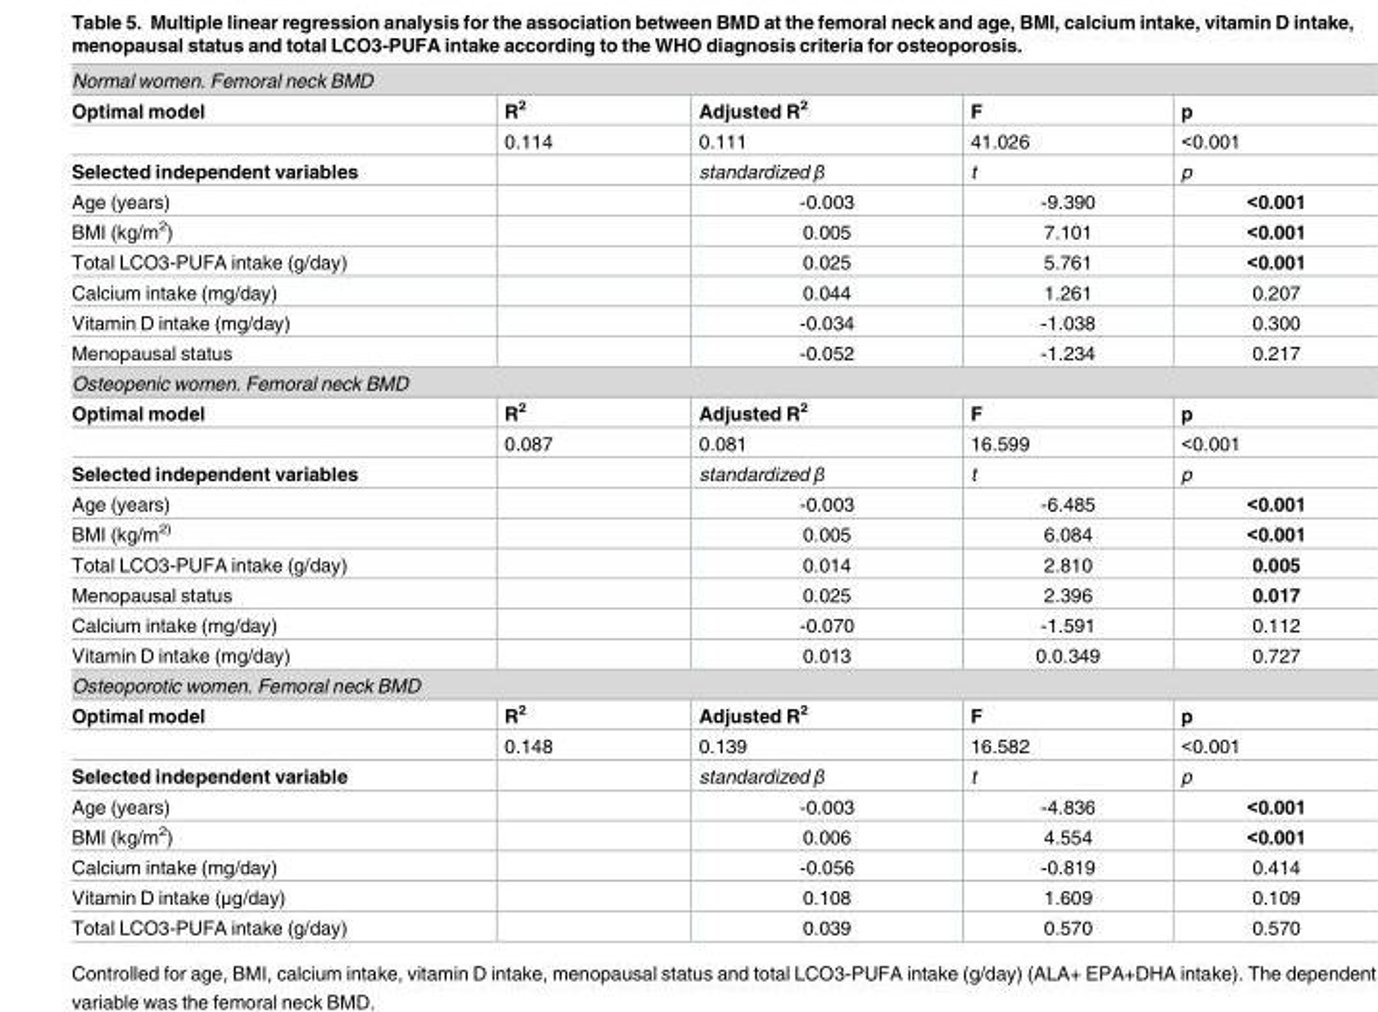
<table><tbody><tr><td colspan="5">Normal women. Femoral neck BMD</td></tr><tr><td rowspan="2">Optimal model</td><td>R<sup>2</sup></td><td>Adjusted R<sup>2</sup></td><td>F</td><td>p</td></tr><tr><td>0.114</td><td>0.111</td><td>41.026</td><td>&lt;0.001</td></tr><tr><td>Selected independent variables</td><td></td><td>standardized β</td><td>t</td><td>p</td></tr><tr><td>Age (years)</td><td></td><td>-0.003</td><td>-9.390</td><td>&lt;0.001</td></tr><tr><td>BMI (kg/m<sup>2</sup>)</td><td></td><td>0.005</td><td>7.101</td><td>&lt;0.001</td></tr><tr><td>Total LCO3-PUFA intake (g/day)</td><td></td><td>0.025</td><td>5.761</td><td>&lt;0.001</td></tr><tr><td>Calcium intake (mg/day)</td><td></td><td>0.044</td><td>1.261</td><td>0.207</td></tr><tr><td>Vitamin D intake (mg/day)</td><td></td><td>-0.034</td><td>-1.038</td><td>0.300</td></tr><tr><td>Menopausal status</td><td></td><td>-0.052</td><td>-1.234</td><td>0.217</td></tr><tr><td colspan="5">Osteopenic women. Femoral neck BMD</td></tr><tr><td rowspan="2">Optimal model</td><td>R<sup>2</sup></td><td>Adjusted R<sup>2</sup></td><td>F</td><td>p</td></tr><tr><td>0.087</td><td>0.081</td><td>16.599</td><td>&lt;0.001</td></tr><tr><td>Selected independent variables</td><td></td><td>standardized β</td><td>t</td><td>p</td></tr><tr><td>Age (years)</td><td></td><td>-0.003</td><td>-6.485</td><td>&lt;0.001</td></tr><tr><td>BMI (kg/m<sup>2)</sup></td><td></td><td>0.005</td><td>6.084</td><td>&lt;0.001</td></tr><tr><td>Total LCO3-PUFA intake (g/day)</td><td></td><td>0.014</td><td>2.810</td><td>0.005</td></tr><tr><td>Menopausal status</td><td></td><td>0.025</td><td>2.396</td><td>0.017</td></tr><tr><td>Calcium intake (mg/day)</td><td></td><td>-0.070</td><td>-1.591</td><td>0.112</td></tr><tr><td>Vitamin D intake (mg/day)</td><td></td><td>0.013</td><td>0.0.349</td><td>0.727</td></tr><tr><td colspan="5">Osteoporotic women. Femoral neck BMD</td></tr><tr><td rowspan="2">Optimal model</td><td>R<sup>2</sup></td><td>Adjusted R<sup>2</sup></td><td>F</td><td>p</td></tr><tr><td>0.148</td><td>0.139</td><td>16.582</td><td>&lt;0.001</td></tr><tr><td>Selected independent variable</td><td></td><td>standardized β</td><td>t</td><td>p</td></tr><tr><td>Age (years)</td><td></td><td>-0.003</td><td>-4.836</td><td>&lt;0.001</td></tr><tr><td>BMI (kg/m<sup>2</sup>)</td><td></td><td>0.006</td><td>4.554</td><td>&lt;0.001</td></tr><tr><td>Calcium intake (mg/day)</td><td></td><td>-0.056</td><td>-0.819</td><td>0.414</td></tr><tr><td>Vitamin D intake (μg/day)</td><td></td><td>0.108</td><td>1.609</td><td>0.109</td></tr><tr><td>Total LCO3-PUFA intake (g/day)</td><td></td><td>0.039</td><td>0.570</td><td>0.570</td></tr></tbody></table>